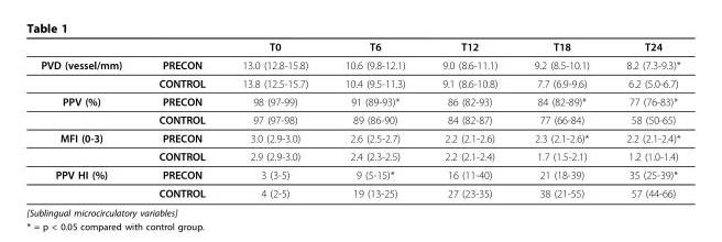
<table><thead><tr><td></td><td></td><td>T0</td><td>T6</td><td>T12</td><td>T18</td><td>T24</td></tr></thead><tbody><tr><td rowspan="2">PVD (vessel/mm)</td><td>PRECON</td><td>13.0 (12.8-15.8)</td><td>10.6 (9.8-12.1)</td><td>9.0 (8.6-11.1)</td><td>9.2 (8.5-10.1)</td><td>8.2 (7.3-9.3)*</td></tr><tr><td>CONTROL</td><td>13.8 (12.5-15.7)</td><td>10.4 (9.5-11.3)</td><td>9.1 (8.6-10.8)</td><td>7.7 (6.9-9.6)</td><td>6.2 (5.0-6.7)</td></tr><tr><td rowspan="2">PPV (%)</td><td>PRECON</td><td>98 (97-99)</td><td>91 (89-93)*</td><td>86 (82-93)</td><td>84 (82-89)*</td><td>77 (76-83)*</td></tr><tr><td>CONTROL</td><td>97 (97-98)</td><td>89 (86-90)</td><td>84 (82-87)</td><td>77 (66-84)</td><td>58 (50-65)</td></tr><tr><td rowspan="2">MFI (0-3)</td><td>PRECON</td><td>3.0 (2.9-3.0)</td><td>2.6 (2.5-2.7)</td><td>2.2 (2.1-2.6)</td><td>2.3 (2.1-2.6)*</td><td>2.2 (2.1-2.4)*</td></tr><tr><td>CONTROL</td><td>2.9 (2.9-3.0)</td><td>2.4 (2.3-2.5)</td><td>2.2 (2.1-2.4)</td><td>1.7 (1.5-2.1)</td><td>1.2 (1.0-1.4)</td></tr><tr><td rowspan="2">PPV HI (%)</td><td>PRECON</td><td>3 (3-5)</td><td>9 (5-15)*</td><td>16 (11-40)</td><td>21 (18-39)</td><td>35 (25-39)*</td></tr><tr><td>CONTROL</td><td>4 (2-5)</td><td>19 (13-25)</td><td>27 (23-35)</td><td>38 (21-55)</td><td>57 (44-66)</td></tr></tbody></table>